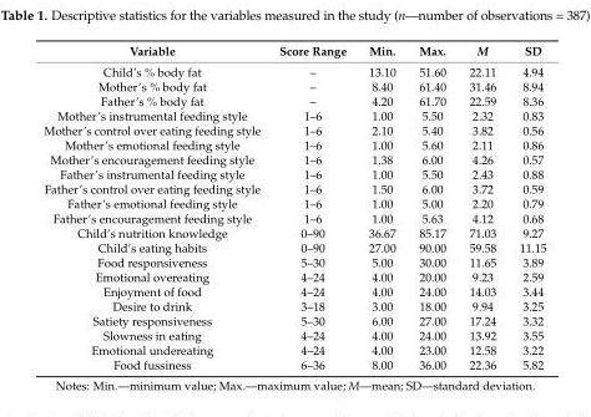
<table><thead><tr><td>Variable</td><td>Score Range</td><td>Min.</td><td>Max.</td><td>M</td><td>SD</td></tr></thead><tbody><tr><td>Child’s % body fat</td><td>–</td><td>13.10</td><td>51.60</td><td>22.11</td><td>4.94</td></tr><tr><td>Mother’s % body fat</td><td>–</td><td>8.40</td><td>61.40</td><td>31.46</td><td>8.94</td></tr><tr><td>Father’s % body fat</td><td>–</td><td>4.20</td><td>61.70</td><td>22.59</td><td>8.36</td></tr><tr><td>Mother’s instrumental feeding style</td><td>1–6</td><td>1.00</td><td>5.50</td><td>2.32</td><td>0.83</td></tr><tr><td>Mother’s control over eating feeding style</td><td>1–6</td><td>2.10</td><td>5.40</td><td>3.82</td><td>0.56</td></tr><tr><td>Mother’s emotional feeding style</td><td>1–6</td><td>1.00</td><td>5.60</td><td>2.11</td><td>0.86</td></tr><tr><td>Mother’s encouragement feeding style</td><td>1–6</td><td>1.38</td><td>6.00</td><td>4.26</td><td>0.57</td></tr><tr><td>Father’s instrumental feeding style</td><td>1–6</td><td>1.00</td><td>5.50</td><td>2.43</td><td>0.88</td></tr><tr><td>Father’s control over eating feeding style</td><td>1–6</td><td>1.50</td><td>6.00</td><td>3.72</td><td>0.59</td></tr><tr><td>Father’s emotional feeding style</td><td>1–6</td><td>1.00</td><td>5.00</td><td>2.20</td><td>0.79</td></tr><tr><td>Father’s encouragement feeding style</td><td>1–6</td><td>1.00</td><td>5.63</td><td>4.12</td><td>0.68</td></tr><tr><td>Child’s nutrition knowledge</td><td>0–90</td><td>36.67</td><td>85.17</td><td>71.03</td><td>9.27</td></tr><tr><td>Child’s eating habits</td><td>0–90</td><td>27.00</td><td>90.00</td><td>59.58</td><td>11.15</td></tr><tr><td>Food responsiveness</td><td>5–30</td><td>5.00</td><td>30.00</td><td>11.65</td><td>3.89</td></tr><tr><td>Emotional overeating</td><td>4–24</td><td>4.00</td><td>20.00</td><td>9.23</td><td>2.59</td></tr><tr><td>Enjoyment of food</td><td>4–24</td><td>4.00</td><td>24.00</td><td>14.03</td><td>3.44</td></tr><tr><td>Desire to drink</td><td>3–18</td><td>3.00</td><td>18.00</td><td>9.94</td><td>3.25</td></tr><tr><td>Satiety responsiveness</td><td>5–30</td><td>6.00</td><td>27.00</td><td>17.24</td><td>3.32</td></tr><tr><td>Slowness in eating</td><td>4–24</td><td>4.00</td><td>24.00</td><td>13.92</td><td>3.55</td></tr><tr><td>Emotional undereating</td><td>4–24</td><td>4.00</td><td>23.00</td><td>12.58</td><td>3.22</td></tr><tr><td>Food fussiness</td><td>6–36</td><td>8.00</td><td>36.00</td><td>22.36</td><td>5.82</td></tr></tbody></table>